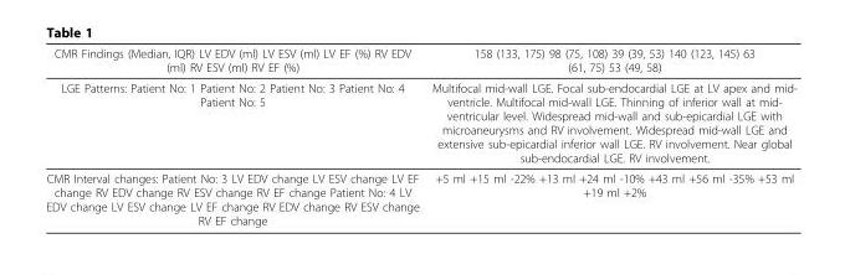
<table><thead><tr><td>CMR Findings (Median, IQR) LV EDV (ml) LV ESV (ml) LV EF (%) RV EDV (ml) RV ESV (ml) RV EF (%)</td><td>158 (133, 175) 98 (75, 108) 39 (39, 53) 140 (123, 145) 63 (61, 75) 53 (49, 58)</td></tr></thead><tbody><tr><td>LGE Patterns: Patient No: 1 Patient No: 2 Patient No: 3 Patient No: 4 Patient No: 5</td><td>Multifocal mid-wall LGE. Focal sub-endocardial LGE at LV apex and mid- ventricle. Multifocal mid-wall LGE. Thinning of inferior wall at mid- ventricular level. Widespread mid-wall and sub-epicardial LGE with microaneurysms and RV involvement. Widespread mid-wall LGE and extensive sub-epicardial inferior wall LGE. RV involvement. Near global sub-endocardial LGE. RV involvement.</td></tr><tr><td>CMR Interval changes: Patient No: 3 LV EDV change LV ESV change LV EF change RV EDV change RV ESV change RV EF change Patient No: 4 LV EDV change LV ESV change LV EF change RV EDV change RV ESV change RV EF change</td><td>+5 ml +15 ml -22% +13 ml +24 ml -10% +43 ml +56 ml -35% +53 ml +19 ml +2%</td></tr></tbody></table>